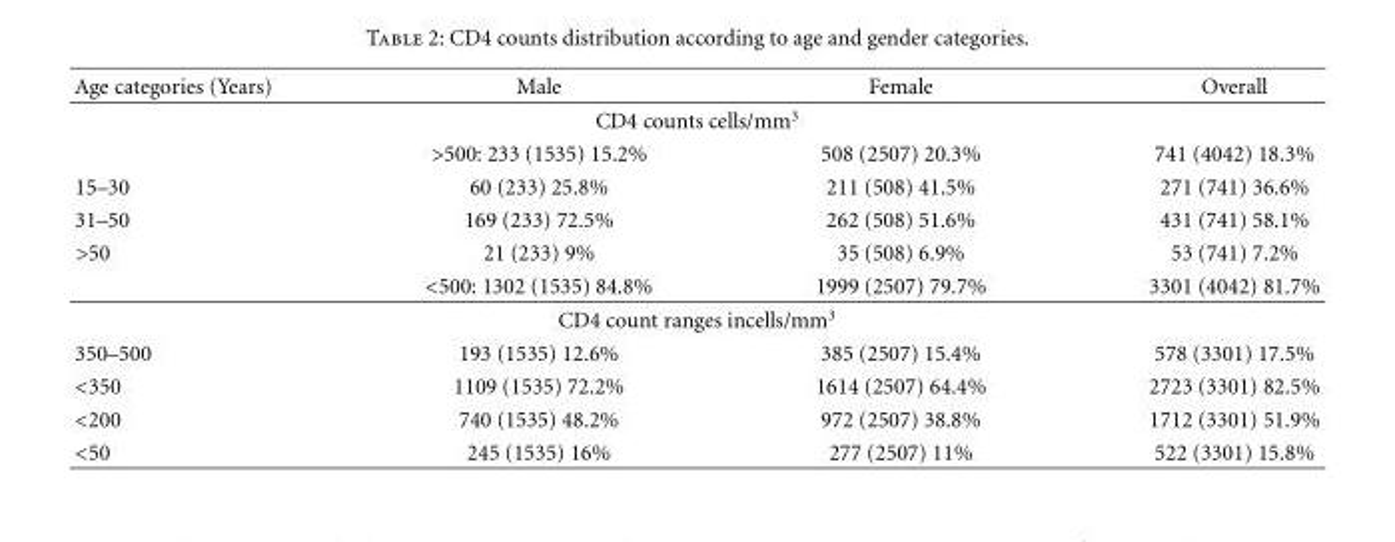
<table><thead><tr><td>Age categories (Years)</td><td>Male</td><td>Female</td><td>Overall</td></tr></thead><tbody><tr><td colspan="4">CD4 counts cells/mm<sup>3</sup></td></tr><tr><td></td><td>&gt;500: 233 (1535) 15.2%</td><td>508 (2507) 20.3%</td><td>741 (4042) 18.3%</td></tr><tr><td>15–30</td><td>60 (233) 25.8%</td><td>211 (508) 41.5%</td><td>271 (741) 36.6%</td></tr><tr><td>31–50</td><td>169 (233) 72.5%</td><td>262 (508) 51.6%</td><td>431 (741) 58.1%</td></tr><tr><td rowspan="2">&gt;50</td><td>21 (233) 9%</td><td>35 (508) 6.9%</td><td>53 (741) 7.2%</td></tr><tr><td>&lt;500: 1302 (1535) 84.8%</td><td>1999 (2507) 79.7%</td><td>3301 (4042) 81.7%</td></tr><tr><td colspan="4">CD4 count ranges incells/mm<sup>3</sup></td></tr><tr><td>350–500</td><td>193 (1535) 12.6%</td><td>385 (2507) 15.4%</td><td>578 (3301) 17.5%</td></tr><tr><td>&lt;350</td><td>1109 (1535) 72.2%</td><td>1614 (2507) 64.4%</td><td>2723 (3301) 82.5%</td></tr><tr><td>&lt;200</td><td>740 (1535) 48.2%</td><td>972 (2507) 38.8%</td><td>1712 (3301) 51.9%</td></tr><tr><td>&lt;50</td><td>245 (1535) 16%</td><td>277 (2507) 11%</td><td>522 (3301) 15.8%</td></tr></tbody></table>